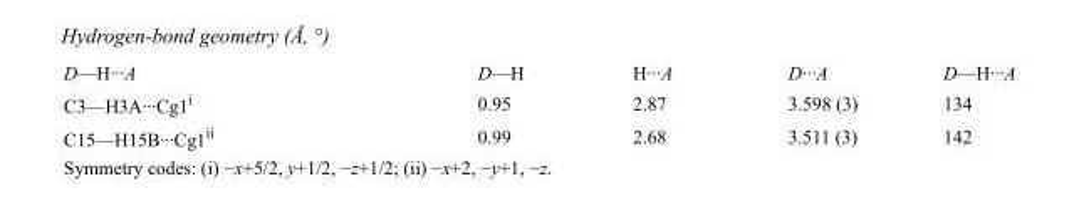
<table><tbody><tr><td>D—H···A</td><td>D—H</td><td>H···A</td><td>D···A</td><td>D—H···A</td></tr><tr><td>C3—H3A···Cg1<sup>i</sup></td><td>0.95</td><td>2.87</td><td>3.598 (3)</td><td>134</td></tr><tr><td>C15—H15B···Cg1<sup>ii</sup></td><td>0.99</td><td>2.68</td><td>3.511 (3)</td><td>142</td></tr></tbody></table>